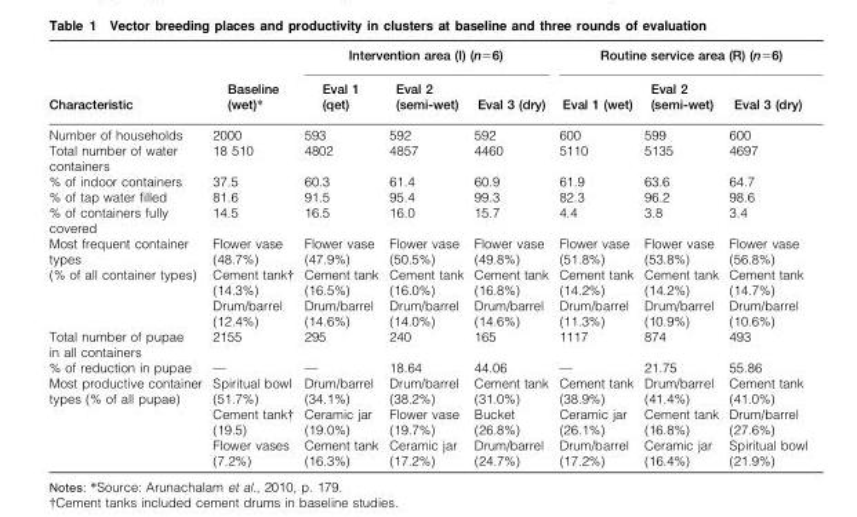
<table><thead><tr><td rowspan="2">Characteristic</td><td rowspan="2">Baseline (wet)*</td><td colspan="3">Intervention area (I) (n=6)</td><td colspan="3">Routine service area (R) (n=6)</td></tr><tr><td>Eval 1 (qet)</td><td>Eval 2 (semi-wet)</td><td>Eval 3 (dry)</td><td>Eval 1 (wet)</td><td>Eval 2 (semi-wet)</td><td>Eval 3 (dry)</td></tr></thead><tbody><tr><td>Number of households</td><td>2000</td><td>593</td><td>592</td><td>592</td><td>600</td><td>599</td><td>600</td></tr><tr><td>Total number of water containers</td><td>18 510</td><td>4802</td><td>4857</td><td>4460</td><td>5110</td><td>5135</td><td>4697</td></tr><tr><td>% of indoor containers</td><td>37.5</td><td>60.3</td><td>61.4</td><td>60.9</td><td>61.9</td><td>63.6</td><td>64.7</td></tr><tr><td>% of tap water filled</td><td>81.6</td><td>91.5</td><td>95.4</td><td>99.3</td><td>82.3</td><td>96.2</td><td>98.6</td></tr><tr><td>% of containers fully covered</td><td>14.5</td><td>16.5</td><td>16.0</td><td>15.7</td><td>4.4</td><td>3.8</td><td>3.4</td></tr><tr><td rowspan="3">Most frequent container types (% of all container types)</td><td>Flower vase (48.7%)</td><td>Flower vase (47.9%)</td><td>Flower vase (50.5%)</td><td>Flower vase (49.8%)</td><td>Flower vase (51.8%)</td><td>Flower vase (53.8%)</td><td>Flower vase (56.8%)</td></tr><tr><td>Cement tank† (14.3%)</td><td>Cement tank (16.5%)</td><td>Cement tank (16.0%)</td><td>Cement tank (16.8%)</td><td>Cement tank (14.2%)</td><td>Cement tank (14.2%)</td><td>Cement tank (14.7%)</td></tr><tr><td>Drum/barrel (12.4%)</td><td>Drum/barrel (14.6%)</td><td>Drum/barrel (14.0%)</td><td>Drum/barrel (14.6%)</td><td>Drum/barrel (11.3%)</td><td>Drum/barrel (10.9%)</td><td>Drum/barrel (10.6%)</td></tr><tr><td>Total number of pupae in all containers</td><td>2155</td><td>295</td><td>240</td><td>165</td><td>1117</td><td>874</td><td>493</td></tr><tr><td>% of reduction in pupae</td><td>—</td><td>—</td><td>18.64</td><td>44.06</td><td>—</td><td>21.75</td><td>55.86</td></tr><tr><td rowspan="3">Most productive container types (% of all pupae)</td><td>Spiritual bowl (51.7%)</td><td>Drum/barrel (34.1%)</td><td>Drum/barrel (38.2%)</td><td>Cement tank (31.0%)</td><td>Cement tank (38.9%)</td><td>Drum/barrel (41.4%)</td><td>Cement tank (41.0%)</td></tr><tr><td>Cement tank† (19.5)</td><td>Ceramic jar (19.0%)</td><td>Flower vase (19.7%)</td><td>Bucket (26.8%)</td><td>Ceramic jar (26.1%)</td><td>Cement tank (16.8%)</td><td>Drum/barrel (27.6%)</td></tr><tr><td>Flower vases (7.2%)</td><td>Cement tank (16.3%)</td><td>Ceramic jar (17.2%)</td><td>Drum/barrel (24.7%)</td><td>Drum/barrel (17.2%)</td><td>Ceramic jar (16.4%)</td><td>Spiritual bowl (21.9%)</td></tr></tbody></table>